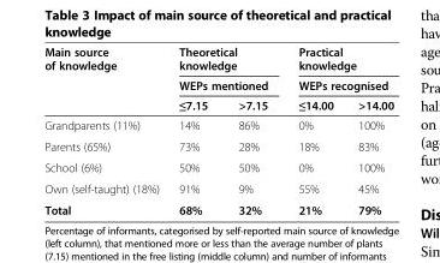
<table><thead><tr><td rowspan="3">Main source of knowledge</td><td rowspan="2" colspan="2">Theoretical knowledge WEPs mentioned</td><td rowspan="2" colspan="2">Practical knowledge WEPs recognised</td></tr><tr></tr><tr><td>≤7.15</td><td>&gt;7.15</td><td>≤14.00</td><td>&gt;14.00</td></tr></thead><tbody><tr><td>Grandparents (11%)</td><td>14%</td><td>86%</td><td>0%</td><td>100%</td></tr><tr><td>Parents (65%)</td><td>73%</td><td>28%</td><td>18%</td><td>83%</td></tr><tr><td>School (6%)</td><td>50%</td><td>50%</td><td>0%</td><td>100%</td></tr><tr><td>Own (self-taught) (18%)</td><td>91%</td><td>9%</td><td>55%</td><td>45%</td></tr><tr><td>Total</td><td>68%</td><td>32%</td><td>21%</td><td>79%</td></tr></tbody></table>